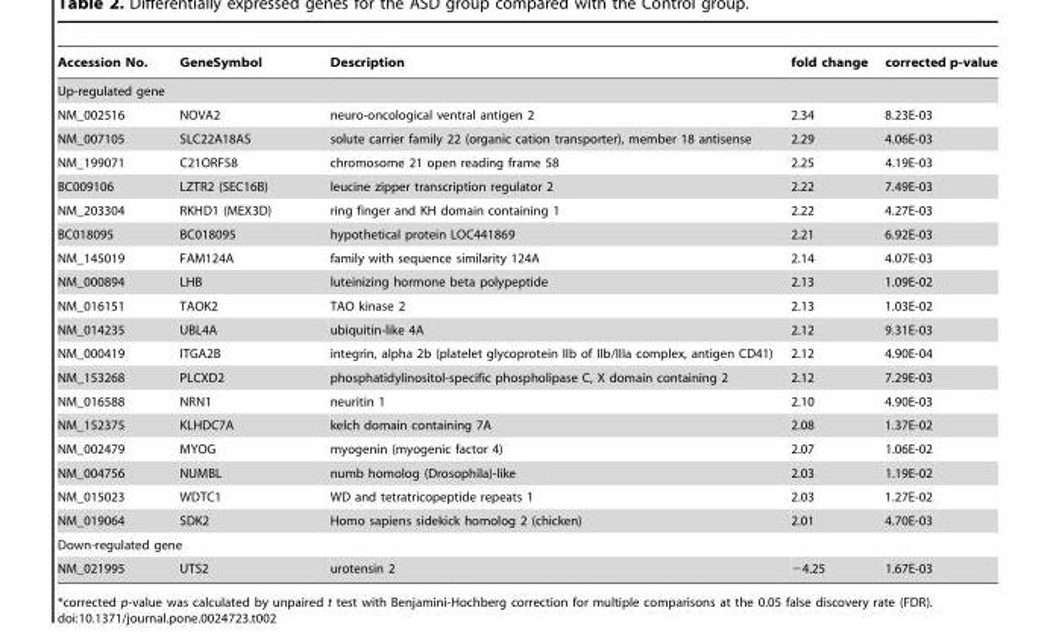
<table><thead><tr><td>Accession No.</td><td>GeneSymbol</td><td>Description</td><td>fold change</td><td>corrected p-value</td></tr></thead><tbody><tr><td colspan="5">Up-regulated gene</td></tr><tr><td>NM_002516</td><td>NOVA2</td><td>neuro-oncological ventral antigen 2</td><td>2.34</td><td>8.23E-03</td></tr><tr><td>NM_007105</td><td>SLC22A18AS</td><td>solute carrier family 22 (organic cation transporter), member 18 antisense</td><td>2.29</td><td>4.06E-03</td></tr><tr><td>NM_199071</td><td>C21ORF58</td><td>chromosome 21 open reading frame 58</td><td>2.25</td><td>4.19E-03</td></tr><tr><td>BC009106</td><td>LZTR2 (SEC16B)</td><td>leucine zipper transcription regulator 2</td><td>2.22</td><td>7.49E-03</td></tr><tr><td>NM_203304</td><td>RKHD1 (MEX3D)</td><td>ring finger and KH domain containing 1</td><td>2.22</td><td>4.27E-03</td></tr><tr><td>BC018095</td><td>BC018095</td><td>hypothetical protein LOC441869</td><td>2.21</td><td>6.92E-03</td></tr><tr><td>NM_145019</td><td>FAM124A</td><td>family with sequence similarity 124A</td><td>2.14</td><td>4.07E-03</td></tr><tr><td>NM_000894</td><td>LHB</td><td>luteinizing hormone beta polypeptide</td><td>2.13</td><td>1.09E-02</td></tr><tr><td>NM_016151</td><td>TAOK2</td><td>TAO kinase 2</td><td>2.13</td><td>1.03E-02</td></tr><tr><td>NM_014235</td><td>UBL4A</td><td>ubiquitin-like 4A</td><td>2.12</td><td>9.31E-03</td></tr><tr><td>NM_000419</td><td>ITGA2B</td><td>integrin, alpha 2b (platelet glycoprotein IIb of IIb/IIIa complex, antigen CD41)</td><td>2.12</td><td>4.90E-04</td></tr><tr><td>NM_153268</td><td>PLCXD2</td><td>phosphatidylinositol-specific phospholipase C, X domain containing 2</td><td>2.12</td><td>7.29E-03</td></tr><tr><td>NM_016588</td><td>NRN1</td><td>neuritin 1</td><td>2.10</td><td>4.90E-03</td></tr><tr><td>NM_152375</td><td>KLHDC7A</td><td>kelch domain containing 7A</td><td>2.08</td><td>1.37E-02</td></tr><tr><td>NM_002479</td><td>MYOG</td><td>myogenin (myogenic factor 4)</td><td>2.07</td><td>1.06E-02</td></tr><tr><td>NM_004756</td><td>NUMBL</td><td>numb homolog (Drosophila)-like</td><td>2.03</td><td>1.19E-02</td></tr><tr><td>NM_015023</td><td>WDTC1</td><td>WD and tetratricopeptide repeats 1</td><td>2.03</td><td>1.27E-02</td></tr><tr><td>NM_019064</td><td>SDK2</td><td>Homo sapiens sidekick homolog 2 (chicken)</td><td>2.01</td><td>4.70E-03</td></tr><tr><td colspan="5">Down-regulated gene</td></tr><tr><td>NM_021995</td><td>UTS2</td><td>urotensin 2</td><td>−4.25</td><td>1.67E-03</td></tr></tbody></table>